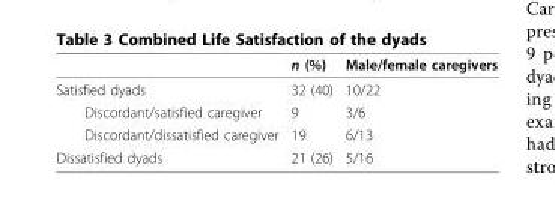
<table><thead><tr><td></td><td>n (%)</td><td>Male/female caregivers</td></tr></thead><tbody><tr><td>Satisfied dyads</td><td>32 (40)</td><td>10/22</td></tr><tr><td>Discordant/satisfied caregiver</td><td>9</td><td>3/6</td></tr><tr><td>Discordant/dissatisfied caregiver</td><td>19</td><td>6/13</td></tr><tr><td>Dissatisfied dyads</td><td>21 (26)</td><td>5/16</td></tr></tbody></table>